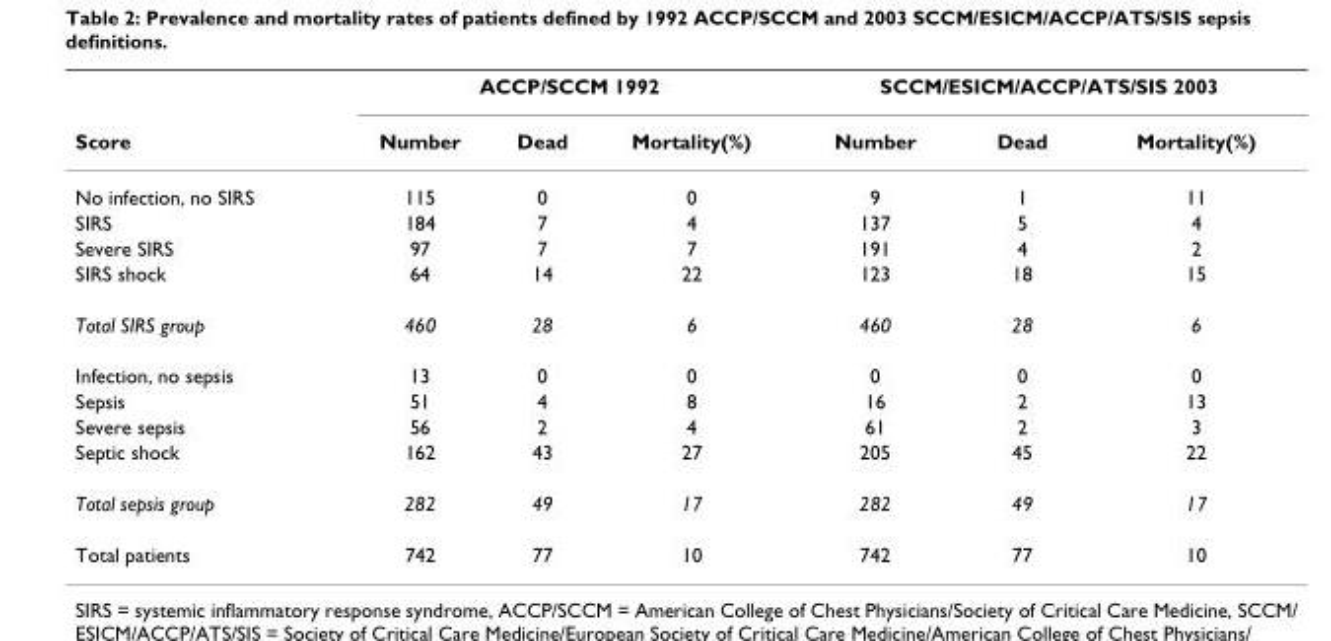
<table><thead><tr><td rowspan="2">Score</td><td colspan="3">ACCP/SCCM 1992</td><td colspan="3">SCCM/ESICM/ACCP/ATS/SIS 2003</td></tr><tr><td>Number</td><td>Dead</td><td>Mortality(%)</td><td>Number</td><td>Dead</td><td>Mortality(%)</td></tr></thead><tbody><tr><td>No infection, no SIRS</td><td>115</td><td>0</td><td>0</td><td>9</td><td>1</td><td>11</td></tr><tr><td>SIRS</td><td>184</td><td>7</td><td>4</td><td>137</td><td>5</td><td>4</td></tr><tr><td>Severe SIRS</td><td>97</td><td>7</td><td>7</td><td>191</td><td>4</td><td>2</td></tr><tr><td>SIRS shock</td><td>64</td><td>14</td><td>22</td><td>123</td><td>18</td><td>15</td></tr><tr><td>Total SIRS group</td><td>460</td><td>28</td><td>6</td><td>460</td><td>28</td><td>6</td></tr><tr><td>Infection, no sepsis</td><td>13</td><td>0</td><td>0</td><td>0</td><td>0</td><td>0</td></tr><tr><td>Sepsis</td><td>51</td><td>4</td><td>8</td><td>16</td><td>2</td><td>13</td></tr><tr><td>Severe sepsis</td><td>56</td><td>2</td><td>4</td><td>61</td><td>2</td><td>3</td></tr><tr><td>Septic shock</td><td>162</td><td>43</td><td>27</td><td>205</td><td>45</td><td>22</td></tr><tr><td>Total sepsis group</td><td>282</td><td>49</td><td>17</td><td>282</td><td>49</td><td>17</td></tr><tr><td>Total patients</td><td>742</td><td>77</td><td>10</td><td>742</td><td>77</td><td>10</td></tr></tbody></table>